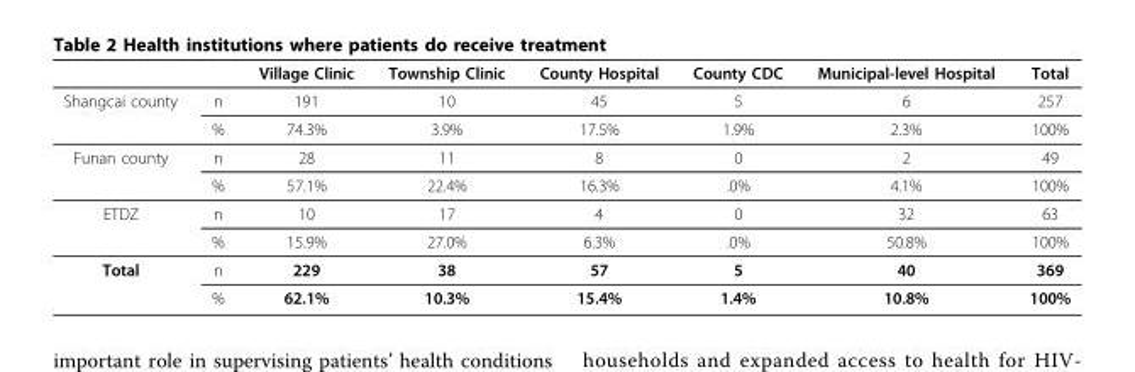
<table><thead><tr><td></td><td></td><td>Village Clinic</td><td>Township Clinic</td><td>County Hospital</td><td>County CDC</td><td>Municipal-level Hospital</td><td>Total</td></tr></thead><tbody><tr><td rowspan="2">Shangcai county</td><td>n</td><td>191</td><td>10</td><td>45</td><td>5</td><td>6</td><td>257</td></tr><tr><td>%</td><td>74.3%</td><td>3.9%</td><td>17.5%</td><td>1.9%</td><td>2.3%</td><td>100%</td></tr><tr><td rowspan="2">Funan county</td><td>n</td><td>28</td><td>11</td><td>8</td><td>0</td><td>2</td><td>49</td></tr><tr><td>%</td><td>57.1%</td><td>22.4%</td><td>16.3%</td><td>.0%</td><td>4.1%</td><td>100%</td></tr><tr><td rowspan="2">ETDZ</td><td>n</td><td>10</td><td>17</td><td>4</td><td>0</td><td>32</td><td>63</td></tr><tr><td>%</td><td>15.9%</td><td>27.0%</td><td>6.3%</td><td>.0%</td><td>50.8%</td><td>100%</td></tr><tr><td rowspan="2">Total</td><td>n</td><td>229</td><td>38</td><td>57</td><td>5</td><td>40</td><td>369</td></tr><tr><td>%</td><td>62.1%</td><td>10.3%</td><td>15.4%</td><td>1.4%</td><td>10.8%</td><td>100%</td></tr></tbody></table>